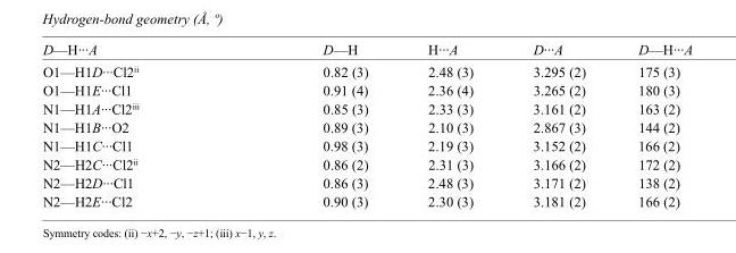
<table><tbody><tr><td>D—H···A</td><td>D—H</td><td>H···A</td><td>D···A</td><td>D—H···A</td></tr><tr><td>O1—H1D···Cl2<sup>ii</sup></td><td>0.82 (3)</td><td>2.48 (3)</td><td>3.295 (2)</td><td>175 (3)</td></tr><tr><td>O1—H1E···Cl1</td><td>0.91 (4)</td><td>2.36 (4)</td><td>3.265 (2)</td><td>180 (3)</td></tr><tr><td>N1—H1A···Cl2<sup>iii</sup></td><td>0.85 (3)</td><td>2.33 (3)</td><td>3.161 (2)</td><td>163 (2)</td></tr><tr><td>N1—H1B···O2</td><td>0.89 (3)</td><td>2.10 (3)</td><td>2.867 (3)</td><td>144 (2)</td></tr><tr><td>N1—H1C···Cl1</td><td>0.98 (3)</td><td>2.19 (3)</td><td>3.152 (2)</td><td>166 (2)</td></tr><tr><td>N2—H2C···Cl2<sup>ii</sup></td><td>0.86 (2)</td><td>2.31 (3)</td><td>3.166 (2)</td><td>172 (2)</td></tr><tr><td>N2—H2D···Cl1</td><td>0.86 (3)</td><td>2.48 (3)</td><td>3.171 (2)</td><td>138 (2)</td></tr><tr><td>N2—H2E···Cl2</td><td>0.90 (3)</td><td>2.30 (3)</td><td>3.181 (2)</td><td>166 (2)</td></tr></tbody></table>